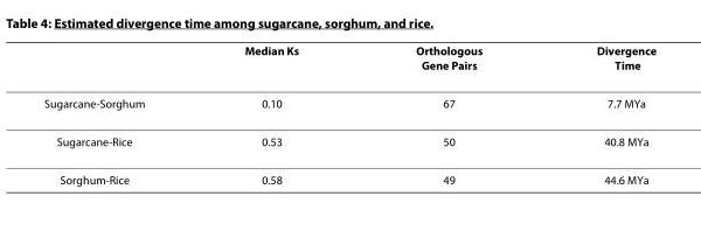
<table><thead><tr><td></td><td>Median Ks</td><td>Orthologous Gene Pairs</td><td>Divergence Time</td></tr></thead><tbody><tr><td>Sugarcane-Sorghum</td><td>0.10</td><td>67</td><td>7.7 MYa</td></tr><tr><td>Sugarcane-Rice</td><td>0.53</td><td>50</td><td>40.8 MYa</td></tr><tr><td>Sorghum-Rice</td><td>0.58</td><td>49</td><td>44.6 MYa</td></tr></tbody></table>